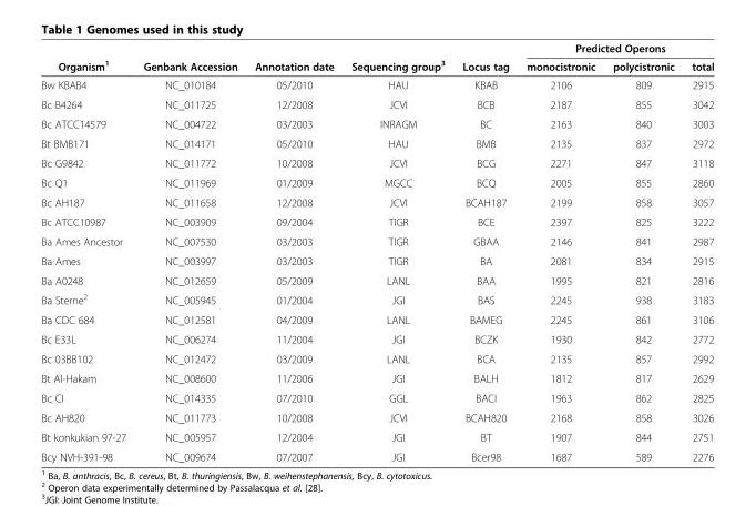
<table><thead><tr><td rowspan="2">Organism<sup>1</sup></td><td rowspan="2">Genbank Accession</td><td rowspan="2">Annotation date</td><td rowspan="2">Sequencing group<sup>3</sup></td><td rowspan="2">Locus tag</td><td colspan="3">Predicted Operons</td></tr><tr><td>monocistronic</td><td>polycistronic</td><td>total</td></tr></thead><tbody><tr><td>Bw KBAB4</td><td>NC_010184</td><td>05/2010</td><td>HAU</td><td>KBAB</td><td>2106</td><td>809</td><td>2915</td></tr><tr><td>Bc B4264</td><td>NC_011725</td><td>12/2008</td><td>JCVI</td><td>BCB</td><td>2187</td><td>855</td><td>3042</td></tr><tr><td>Bc ATCC14579</td><td>NC_004722</td><td>03/2003</td><td>INRAGM</td><td>BC</td><td>2163</td><td>840</td><td>3003</td></tr><tr><td>Bt BMB171</td><td>NC_014171</td><td>05/2010</td><td>HAU</td><td>BMB</td><td>2135</td><td>837</td><td>2972</td></tr><tr><td>Bc G9842</td><td>NC_011772</td><td>10/2008</td><td>JCVI</td><td>BCG</td><td>2271</td><td>847</td><td>3118</td></tr><tr><td>Bc Q1</td><td>NC_011969</td><td>01/2009</td><td>MGCC</td><td>BCQ</td><td>2005</td><td>855</td><td>2860</td></tr><tr><td>Bc AH187</td><td>NC_011658</td><td>12/2008</td><td>JCVI</td><td>BCAH187</td><td>2199</td><td>858</td><td>3057</td></tr><tr><td>Bc ATCC10987</td><td>NC_003909</td><td>09/2004</td><td>TIGR</td><td>BCE</td><td>2397</td><td>825</td><td>3222</td></tr><tr><td>Ba Ames Ancestor</td><td>NC_007530</td><td>03/2003</td><td>TIGR</td><td>GBAA</td><td>2146</td><td>841</td><td>2987</td></tr><tr><td>Ba Ames</td><td>NC_003997</td><td>03/2003</td><td>TIGR</td><td>BA</td><td>2081</td><td>834</td><td>2915</td></tr><tr><td>Ba A0248</td><td>NC_012659</td><td>05/2009</td><td>LANL</td><td>BAA</td><td>1995</td><td>821</td><td>2816</td></tr><tr><td>Ba Sterne<sup>2</sup></td><td>NC_005945</td><td>01/2004</td><td>JGI</td><td>BAS</td><td>2245</td><td>938</td><td>3183</td></tr><tr><td>Ba CDC 684</td><td>NC_012581</td><td>04/2009</td><td>LANL</td><td>BAMEG</td><td>2245</td><td>861</td><td>3106</td></tr><tr><td>Bc E33L</td><td>NC_006274</td><td>11/2004</td><td>JGI</td><td>BCZK</td><td>1930</td><td>842</td><td>2772</td></tr><tr><td>Bc 03BB102</td><td>NC_012472</td><td>03/2009</td><td>LANL</td><td>BCA</td><td>2135</td><td>857</td><td>2992</td></tr><tr><td>Bt Al-Hakam</td><td>NC_008600</td><td>11/2006</td><td>JGI</td><td>BALH</td><td>1812</td><td>817</td><td>2629</td></tr><tr><td>Bc CI</td><td>NC_014335</td><td>07/2010</td><td>GGL</td><td>BACI</td><td>1963</td><td>862</td><td>2825</td></tr><tr><td>Bc AH820</td><td>NC_011773</td><td>10/2008</td><td>JCVI</td><td>BCAH820</td><td>2168</td><td>858</td><td>3026</td></tr><tr><td>Bt konkukian 97-27</td><td>NC_005957</td><td>12/2004</td><td>JGI</td><td>BT</td><td>1907</td><td>844</td><td>2751</td></tr><tr><td>Bcy NVH-391-98</td><td>NC_009674</td><td>07/2007</td><td>JGI</td><td>Bcer98</td><td>1687</td><td>589</td><td>2276</td></tr></tbody></table>